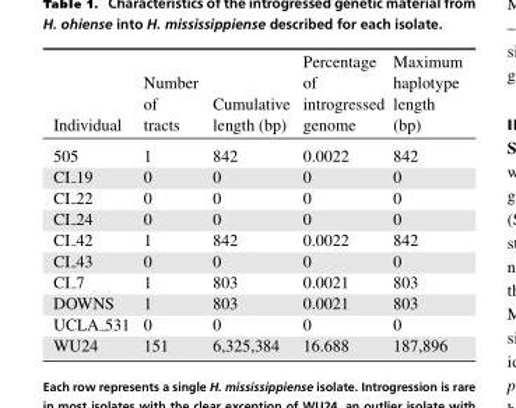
<table><thead><tr><td>Individual</td><td>Number of tracts</td><td>Cumulative length (bp)</td><td>Percentage of introgressed genome</td><td>Maximum haplotype length (bp)</td></tr></thead><tbody><tr><td>505</td><td>1</td><td>842</td><td>0.0022</td><td>842</td></tr><tr><td>CI 19</td><td>0</td><td>0</td><td>0</td><td>0</td></tr><tr><td>CI 22</td><td>0</td><td>0</td><td>0</td><td>0</td></tr><tr><td>CI 24</td><td>0</td><td>0</td><td>0</td><td>0</td></tr><tr><td>CI 42</td><td>1</td><td>842</td><td>0.0022</td><td>842</td></tr><tr><td>CI 43</td><td>0</td><td>0</td><td>0</td><td>0</td></tr><tr><td>CI 7</td><td>1</td><td>803</td><td>0.0021</td><td>803</td></tr><tr><td>DOWNS</td><td>1</td><td>803</td><td>0.0021</td><td>803</td></tr><tr><td>UCLA 531</td><td>0</td><td>0</td><td>0</td><td>0</td></tr><tr><td>WU24</td><td>151</td><td>6,325,384</td><td>16.688</td><td>187,896</td></tr></tbody></table>